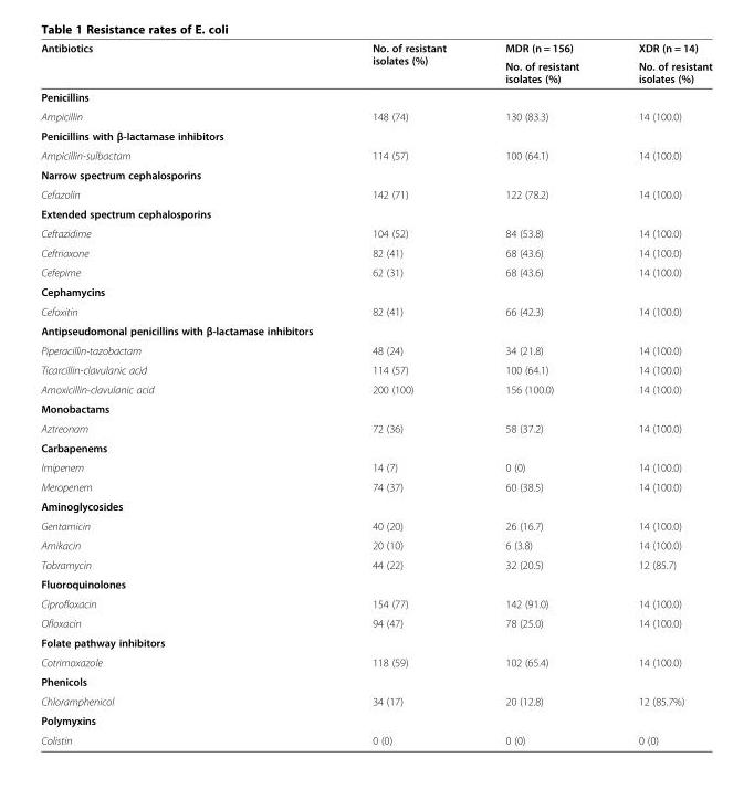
<table><thead><tr><td rowspan="2">Antibiotics</td><td rowspan="2">No. of resistant isolates (%)</td><td rowspan="2">MDR (n = 156) No. of resistant isolates (%)</td><td rowspan="2">XDR (n = 14) No. of resistant isolates (%)</td></tr><tr></tr></thead><tbody><tr><td colspan="4">Penicillins</td></tr><tr><td>Ampicillin</td><td>148 (74)</td><td>130 (83.3)</td><td>14 (100.0)</td></tr><tr><td colspan="4">Penicillins with β-lactamase inhibitors</td></tr><tr><td>Ampicillin-sulbactam</td><td>114 (57)</td><td>100 (64.1)</td><td>14 (100.0)</td></tr><tr><td colspan="4">Narrow spectrum cephalosporins</td></tr><tr><td>Cefazolin</td><td>142 (71)</td><td>122 (78.2)</td><td>14 (100.0)</td></tr><tr><td colspan="4">Extended spectrum cephalosporins</td></tr><tr><td>Ceftazidime</td><td>104 (52)</td><td>84 (53.8)</td><td>14 (100.0)</td></tr><tr><td>Ceftriaxone</td><td>82 (41)</td><td>68 (43.6)</td><td>14 (100.0)</td></tr><tr><td>Cefepime</td><td>62 (31)</td><td>68 (43.6)</td><td>14 (100.0)</td></tr><tr><td colspan="4">Cephamycins</td></tr><tr><td>Cefoxitin</td><td>82 (41)</td><td>66 (42.3)</td><td>14 (100.0)</td></tr><tr><td colspan="4">Antipseudomonal penicillins with β-lactamase inhibitors</td></tr><tr><td>Piperacillin-tazobactam</td><td>48 (24)</td><td>34 (21.8)</td><td>14 (100.0)</td></tr><tr><td>Ticarcillin-clavulanic acid</td><td>114 (57)</td><td>100 (64.1)</td><td>14 (100.0)</td></tr><tr><td>Amoxicillin-clavulanic acid</td><td>200 (100)</td><td>156 (100.0)</td><td>14 (100.0)</td></tr><tr><td colspan="4">Monobactams</td></tr><tr><td>Aztreonam</td><td>72 (36)</td><td>58 (37.2)</td><td>14 (100.0)</td></tr><tr><td colspan="4">Carbapenems</td></tr><tr><td>Imipenem</td><td>14 (7)</td><td>0 (0)</td><td>14 (100.0)</td></tr><tr><td>Meropenem</td><td>74 (37)</td><td>60 (38.5)</td><td>14 (100.0)</td></tr><tr><td colspan="4">Aminoglycosides</td></tr><tr><td>Gentamicin</td><td>40 (20)</td><td>26 (16.7)</td><td>14 (100.0)</td></tr><tr><td>Amikacin</td><td>20 (10)</td><td>6 (3.8)</td><td>14 (100.0)</td></tr><tr><td>Tobramycin</td><td>44 (22)</td><td>32 (20.5)</td><td>12 (85.7)</td></tr><tr><td colspan="4">Fluoroquinolones</td></tr><tr><td>Ciprofloxacin</td><td>154 (77)</td><td>142 (91.0)</td><td>14 (100.0)</td></tr><tr><td>Ofloxacin</td><td>94 (47)</td><td>78 (25.0)</td><td>14 (100.0)</td></tr><tr><td colspan="4">Folate pathway inhibitors</td></tr><tr><td>Cotrimoxazole</td><td>118 (59)</td><td>102 (65.4)</td><td>14 (100.0)</td></tr><tr><td colspan="4">Phenicols</td></tr><tr><td>Chloramphenicol</td><td>34 (17)</td><td>20 (12.8)</td><td>12 (85.7%)</td></tr><tr><td colspan="4">Polymyxins</td></tr><tr><td>Colistin</td><td>0 (0)</td><td>0 (0)</td><td>0 (0)</td></tr></tbody></table>